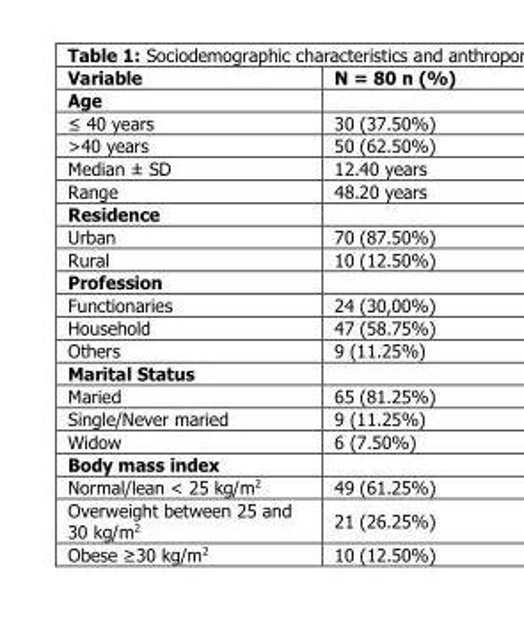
<table><thead><tr><td>Variable</td><td>N = 80 n (%)</td></tr></thead><tbody><tr><td colspan="2">Age</td></tr><tr><td>≤ 40 years</td><td>30 (37.50%)</td></tr><tr><td>&gt;40 years</td><td>50 (62.50%)</td></tr><tr><td>Median ± SD</td><td>12.40 years</td></tr><tr><td>Range</td><td>48.20 years</td></tr><tr><td colspan="2">Residence</td></tr><tr><td>Urban</td><td>70 (87.50%)</td></tr><tr><td>Rural</td><td>10 (12.50%)</td></tr><tr><td colspan="2">Profession</td></tr><tr><td>Functionaries</td><td>24 (30,00%)</td></tr><tr><td>Household</td><td>47 (58.75%)</td></tr><tr><td>Others</td><td>9 (11.25%)</td></tr><tr><td colspan="2">Marital Status</td></tr><tr><td>Maried</td><td>65 (81.25%)</td></tr><tr><td>Single/Never maried</td><td>9 (11.25%)</td></tr><tr><td>Widow</td><td>6 (7.50%)</td></tr><tr><td colspan="2">Body mass index</td></tr><tr><td>Normal/lean &lt; 25 kg/m<sup>2</sup></td><td>49 (61.25%)</td></tr><tr><td>Overweight between 25 and 30 kg/m<sup>2</sup></td><td>21 (26.25%)</td></tr><tr><td>Obese ≥30 kg/m<sup>2</sup></td><td>10 (12.50%)</td></tr></tbody></table>